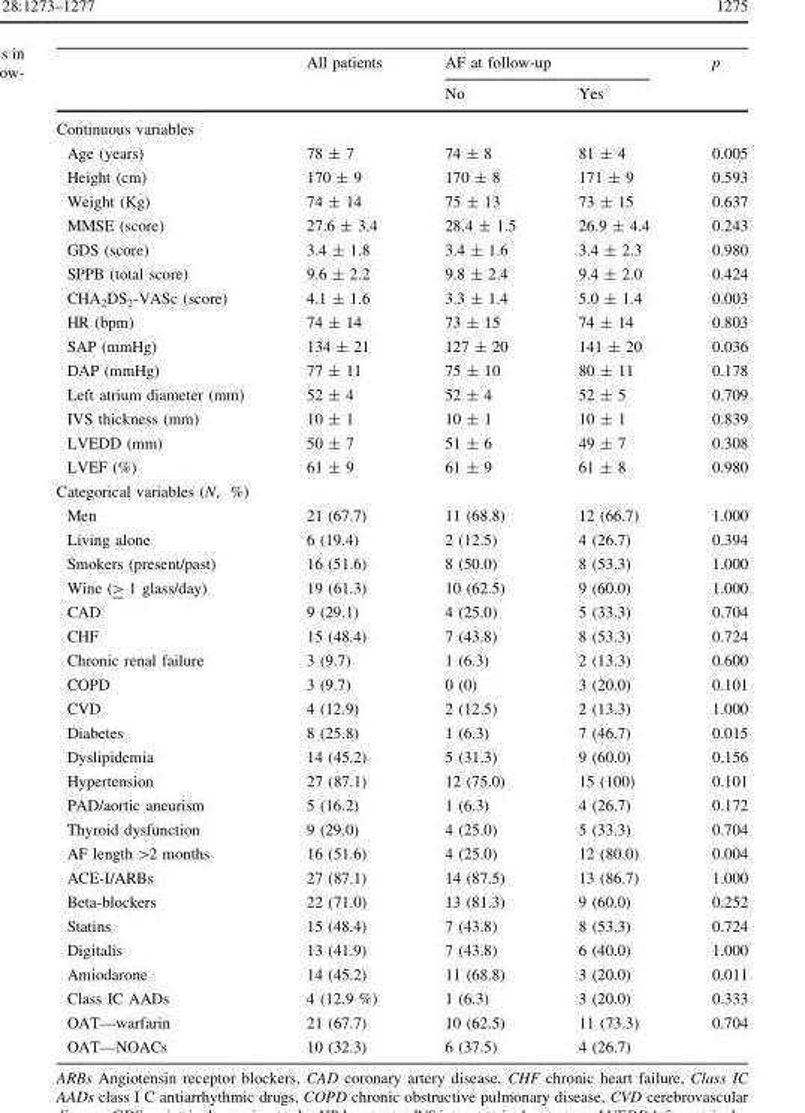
<table><thead><tr><td rowspan="2"></td><td rowspan="2">All patients</td><td colspan="2">AF at follow-up</td><td rowspan="2">p</td></tr><tr><td>No</td><td>Yes</td></tr></thead><tbody><tr><td colspan="5">Continuous variables</td></tr><tr><td>Age (years)</td><td>78 ± 7</td><td>74 ± 8</td><td>81 ± 4</td><td>0.005</td></tr><tr><td>Height (cm)</td><td>170 ± 9</td><td>170 ± 8</td><td>171 ± 9</td><td>0.593</td></tr><tr><td>Weight (Kg)</td><td>74 ± 14</td><td>75 ± 13</td><td>73 ± 15</td><td>0.637</td></tr><tr><td>MMSE (score)</td><td>27.6 ± 3.4</td><td>28.4 ± 1.5</td><td>26.9 ± 4.4</td><td>0.243</td></tr><tr><td>GDS (score)</td><td>3.4 ± 1.8</td><td>3.4 ± 1.6</td><td>3.4 ± 2.3</td><td>0.980</td></tr><tr><td>SPPB (total score)</td><td>9.6 ± 2.2</td><td>9.8 ± 2.4</td><td>9.4 ± 2.0</td><td>0.424</td></tr><tr><td>CHA<sub>2</sub>DS<sub>2</sub>-VASc (score)</td><td>4.1 ± 1.6</td><td>3.3 ± 1.4</td><td>5.0 ± 1.4</td><td>0.003</td></tr><tr><td>HR (bpm)</td><td>74 ± 14</td><td>73 ± 15</td><td>74 ± 14</td><td>0.803</td></tr><tr><td>SAP (mmHg)</td><td>134 ± 21</td><td>127 ± 20</td><td>141 ± 20</td><td>0.036</td></tr><tr><td>DAP (mmHg)</td><td>77 ± 11</td><td>75 ± 10</td><td>80 ± 11</td><td>0.178</td></tr><tr><td>Left atrium diameter (mm)</td><td>52 ± 4</td><td>52 ± 4</td><td>52 ± 5</td><td>0.709</td></tr><tr><td>IVS thickness (mm)</td><td>10 ± 1</td><td>10 ± 1</td><td>10 ± 1</td><td>0.839</td></tr><tr><td>LVEDD (mm)</td><td>50 ± 7</td><td>51 ± 6</td><td>49 ± 7</td><td>0.308</td></tr><tr><td>LVEF (%)</td><td>61 ± 9</td><td>61 ± 9</td><td>61 ± 8</td><td>0.980</td></tr><tr><td colspan="5">Categorical variables (N, %)</td></tr><tr><td>Men</td><td>21 (67.7)</td><td>11 (68.8)</td><td>12 (66.7)</td><td>1.000</td></tr><tr><td>Living alone</td><td>6 (19.4)</td><td>2 (12.5)</td><td>4 (26.7)</td><td>0.394</td></tr><tr><td>Smokers (present/past)</td><td>16 (51.6)</td><td>8 (50.0)</td><td>8 (53.3)</td><td>1.000</td></tr><tr><td>Wine (&gt; 1 glass/day)</td><td>19 (61.3)</td><td>10 (62.5)</td><td>9 (60.0)</td><td>1.000</td></tr><tr><td>CAD</td><td>9 (29.1)</td><td>4 (25.0)</td><td>5 (33.3)</td><td>0.704</td></tr><tr><td>CHF</td><td>15 (48.4)</td><td>7 (43.8)</td><td>8 (53.3)</td><td>0.724</td></tr><tr><td>Chronic renal failure</td><td>3 (9.7)</td><td>1 (6.3)</td><td>2 (13.3)</td><td>0.600</td></tr><tr><td>COPD</td><td>3 (9.7)</td><td>0 (0)</td><td>3 (20.0)</td><td>0.101</td></tr><tr><td>CVD</td><td>4 (12.9)</td><td>2 (12.5)</td><td>2 (13.3)</td><td>1.000</td></tr><tr><td>Diabetes</td><td>8 (25.8)</td><td>1 (6.3)</td><td>7 (46.7)</td><td>0.015</td></tr><tr><td>Dyslipidemia</td><td>14 (45.2)</td><td>5 (31.3)</td><td>9 (60.0)</td><td>0.156</td></tr><tr><td>Hypertension</td><td>27 (87.1)</td><td>12 (75.0)</td><td>15 (100)</td><td>0.101</td></tr><tr><td>PAD/aortic aneurism</td><td>5 (16.2)</td><td>1 (6.3)</td><td>4 (26.7)</td><td>0.172</td></tr><tr><td>Thyroid dysfunction</td><td>9 (29.0)</td><td>4 (25.0)</td><td>5 (33.3)</td><td>0.704</td></tr><tr><td>AF length &gt;2 months</td><td>16 (51.6)</td><td>4 (25.0)</td><td>12 (80.0)</td><td>0.004</td></tr><tr><td>ACE-I/ARBs</td><td>27 (87.1)</td><td>14 (87.5)</td><td>13 (86.7)</td><td>1.000</td></tr><tr><td>Beta-blockers</td><td>22 (71.0)</td><td>13 (81.3)</td><td>9 (60.0)</td><td>0.252</td></tr><tr><td>Statins</td><td>15 (48.4)</td><td>7 (43.8)</td><td>8 (53.3)</td><td>0.724</td></tr><tr><td>Digitalis</td><td>13 (41.9)</td><td>7 (43.8)</td><td>6 (40.0)</td><td>1.000</td></tr><tr><td>Amiodarone</td><td>14 (45.2)</td><td>11 (68.8)</td><td>3 (20.0)</td><td>0.011</td></tr><tr><td>Class IC AADs</td><td>4 (12.9 %)</td><td>1 (6.3)</td><td>3 (20.0)</td><td>0.333</td></tr><tr><td>OAT—warfarin</td><td>21 (67.7)</td><td>10 (62.5)</td><td>11 (73.3)</td><td>0.704</td></tr><tr><td>OAT—NOACs</td><td>10 (32.3)</td><td>6 (37.5)</td><td>4 (26.7)</td><td></td></tr></tbody></table>